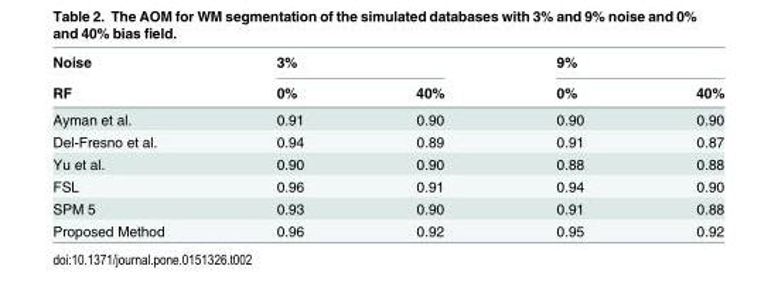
<table><thead><tr><td rowspan="2">Noise RF</td><td colspan="2">3%</td><td colspan="2">9%</td></tr><tr><td>0%</td><td>40%</td><td>0%</td><td>40%</td></tr></thead><tbody><tr><td>Ayman et al.</td><td>0.91</td><td>0.90</td><td>0.90</td><td>0.90</td></tr><tr><td>Del-Fresno et al.</td><td>0.94</td><td>0.89</td><td>0.91</td><td>0.87</td></tr><tr><td>Yu et al.</td><td>0.90</td><td>0.90</td><td>0.88</td><td>0.88</td></tr><tr><td>FSL</td><td>0.96</td><td>0.91</td><td>0.94</td><td>0.90</td></tr><tr><td>SPM 5</td><td>0.93</td><td>0.90</td><td>0.91</td><td>0.88</td></tr><tr><td>Proposed Method</td><td>0.96</td><td>0.92</td><td>0.95</td><td>0.92</td></tr></tbody></table>